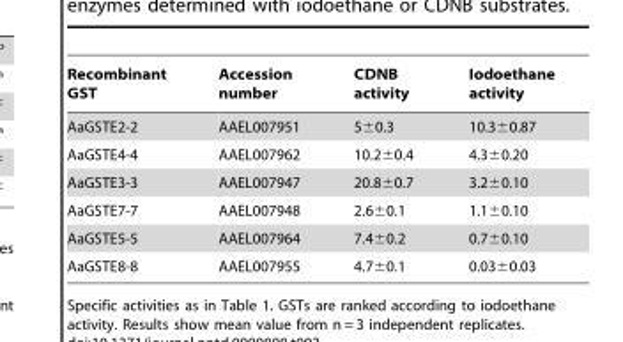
<table><thead><tr><td>Recombinant GST</td><td>Accession number</td><td>CDNB activity</td><td>Iodoethane activity</td></tr></thead><tbody><tr><td>AaGSTE2-2</td><td>AAEL007951</td><td>5±0.3</td><td>10.3±0.87</td></tr><tr><td>AaGSTE4-4</td><td>AAEL007962</td><td>10.2±0.4</td><td>4.3±0.20</td></tr><tr><td>AaGSTE3-3</td><td>AAEL007947</td><td>20.8±0.7</td><td>3.2±0.10</td></tr><tr><td>AaGSTE7-7</td><td>AAEL007948</td><td>2.6±0.1</td><td>1.1±0.10</td></tr><tr><td>AaGSTE5-5</td><td>AAEL007964</td><td>7.4±0.2</td><td>0.7±0.10</td></tr><tr><td>AaGSTE8-8</td><td>AAEL007955</td><td>4.7±0.1</td><td>0.03±0.03</td></tr></tbody></table>